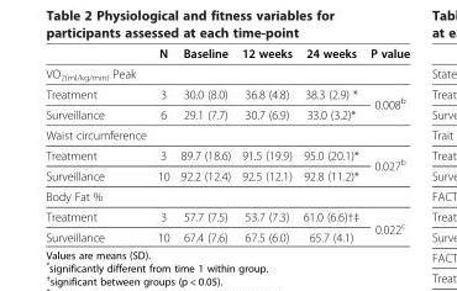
<table><thead><tr><td></td><td>N</td><td>Baseline</td><td>12 weeks</td><td>24 weeks</td><td>P value</td></tr></thead><tbody><tr><td colspan="6">VO<sub>2(ml/kg/min)</sub> Peak</td></tr><tr><td>Treatment</td><td>3</td><td>30.0 (8.0)</td><td>36.8 (4.8)</td><td>38.3 (2.9) *</td><td rowspan="2">0.008<sup>b</sup></td></tr><tr><td>Surveillance</td><td>6</td><td>29.1 (7.7)</td><td>30.7 (6.9)</td><td>33.0 (3.2)*</td></tr><tr><td colspan="6">Waist circumference</td></tr><tr><td>Treatment</td><td>3</td><td>89.7 (18.6)</td><td>91.5 (19.9)</td><td>95.0 (20.1)*</td><td rowspan="2">0.027<sup>b</sup></td></tr><tr><td>Surveillance</td><td>10</td><td>92.2 (12.4)</td><td>92.5 (12.1)</td><td>92.8 (11.2)*</td></tr><tr><td colspan="6">Body Fat %</td></tr><tr><td>Treatment</td><td>3</td><td>57.7 (7.5)</td><td>53.7 (7.3)</td><td>61.0 (6.6)†‡</td><td rowspan="2">0.022<sup>c</sup></td></tr><tr><td>Surveillance</td><td>10</td><td>67.4 (7.6)</td><td>67.5 (6.0)</td><td>65.7 (4.1)</td></tr></tbody></table>